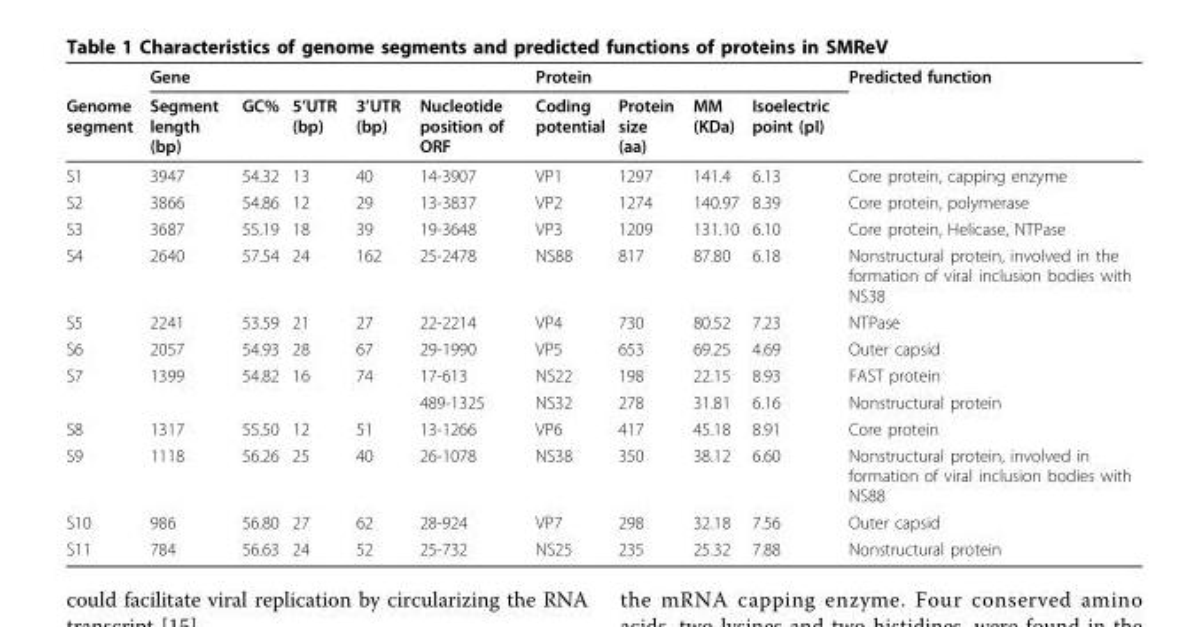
<table><thead><tr><td rowspan="2">Genome segment</td><td colspan="5">Gene</td><td colspan="4">Protein</td><td rowspan="2">Predicted function</td></tr><tr><td>Segment length (bp)</td><td>GC%</td><td>5’UTR (bp)</td><td>3’UTR (bp)</td><td>Nucleotide position of ORF</td><td>Coding potential</td><td>Protein size (aa)</td><td>MM (KDa)</td><td>Isoelectric point (pI)</td></tr></thead><tbody><tr><td>S1</td><td>3947</td><td>54.32</td><td>13</td><td>40</td><td>14-3907</td><td>VP1</td><td>1297</td><td>141.4</td><td>6.13</td><td>Core protein, capping enzyme</td></tr><tr><td>S2</td><td>3866</td><td>54.86</td><td>12</td><td>29</td><td>13-3837</td><td>VP2</td><td>1274</td><td>140.97</td><td>8.39</td><td>Core protein, polymerase</td></tr><tr><td>S3</td><td>3687</td><td>55.19</td><td>18</td><td>39</td><td>19-3648</td><td>VP3</td><td>1209</td><td>131.10</td><td>6.10</td><td>Core protein, Helicase, NTPase</td></tr><tr><td>S4</td><td>2640</td><td>57.54</td><td>24</td><td>162</td><td>25-2478</td><td>NS88</td><td>817</td><td>87.80</td><td>6.18</td><td>Nonstructural protein, involved in the formation of viral inclusion bodies with NS38</td></tr><tr><td>S5</td><td>2241</td><td>53.59</td><td>21</td><td>27</td><td>22-2214</td><td>VP4</td><td>730</td><td>80.52</td><td>7.23</td><td>NTPase</td></tr><tr><td>S6</td><td>2057</td><td>54.93</td><td>28</td><td>67</td><td>29-1990</td><td>VP5</td><td>653</td><td>69.25</td><td>4.69</td><td>Outer capsid</td></tr><tr><td rowspan="2">S7</td><td>1399</td><td>54.82</td><td>16</td><td>74</td><td>17-613</td><td>NS22</td><td>198</td><td>22.15</td><td>8.93</td><td>FAST protein</td></tr><tr><td></td><td></td><td></td><td></td><td>489-1325</td><td>NS32</td><td>278</td><td>31.81</td><td>6.16</td><td>Nonstructural protein</td></tr><tr><td>S8</td><td>1317</td><td>55.50</td><td>12</td><td>51</td><td>13-1266</td><td>VP6</td><td>417</td><td>45.18</td><td>8.91</td><td>Core protein</td></tr><tr><td>S9</td><td>1118</td><td>56.26</td><td>25</td><td>40</td><td>26-1078</td><td>NS38</td><td>350</td><td>38.12</td><td>6.60</td><td>Nonstructural protein, involved in formation of viral inclusion bodies with NS88</td></tr><tr><td>S10</td><td>986</td><td>56.80</td><td>27</td><td>62</td><td>28-924</td><td>VP7</td><td>298</td><td>32.18</td><td>7.56</td><td>Outer capsid</td></tr><tr><td>S11</td><td>784</td><td>56.63</td><td>24</td><td>52</td><td>25-732</td><td>NS25</td><td>235</td><td>25.32</td><td>7.88</td><td>Nonstructural protein</td></tr></tbody></table>